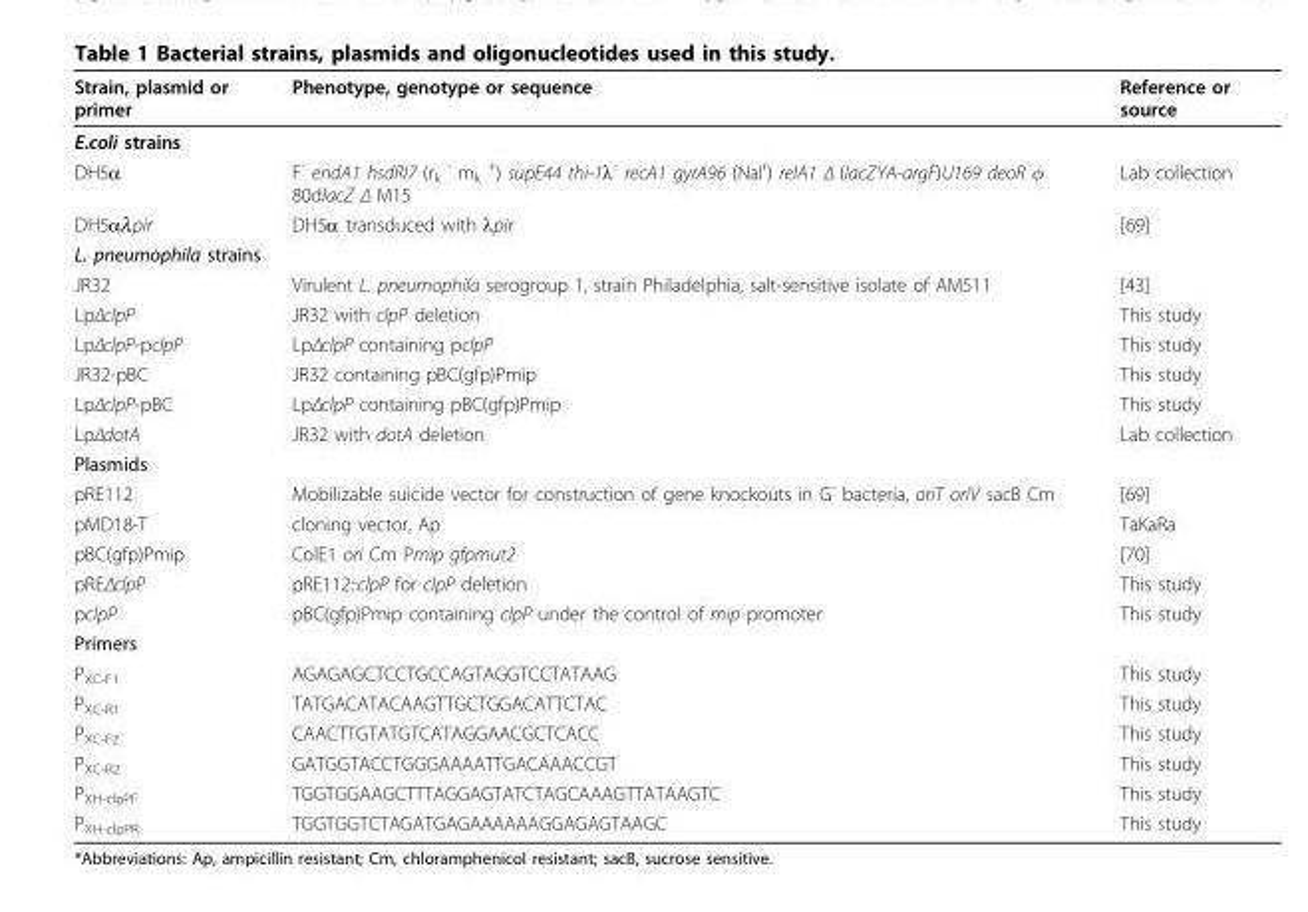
<table><thead><tr><td>Strain, plasmid or primer</td><td>Phenotype, genotype or sequence</td><td>Reference or source</td></tr></thead><tbody><tr><td colspan="3">E.coli strains</td></tr><tr><td>DH5α</td><td>F<sup>-</sup> endA1 hsdRI7 (r<sub>k</sub> <sup>-</sup> m<sub>k</sub> <sup>+</sup>) supE44 thi-1λ<sup>-</sup> recA1 gyrA96 (Nal<sup>r</sup>) relA1 Δ (lacZYA-argF)U169 deoR φ 80dlacZ Δ M15</td><td>Lab collection</td></tr><tr><td>DH5αλpir</td><td>DH5α transduced with λpir</td><td>[69]</td></tr><tr><td colspan="3">L. pneumophila strains</td></tr><tr><td>JR32</td><td>Virulent L. pneumophila serogroup 1, strain Philadelphia, salt-sensitive isolate of AM511</td><td>[43]</td></tr><tr><td>LpΔclpP</td><td>JR32 with clpP deletion</td><td>This study</td></tr><tr><td>LpΔclpP-pclpP</td><td>LpΔclpP containing pclpP</td><td>This study</td></tr><tr><td>JR32-pBC</td><td>JR32 containing pBC(gfp)Pmip</td><td>This study</td></tr><tr><td>LpΔclpP-pBC</td><td>LpΔclpP containing pBC(gfp)Pmip</td><td>This study</td></tr><tr><td>LpΔdotA</td><td>JR32 with dotA deletion</td><td>Lab collection</td></tr><tr><td colspan="3">Plasmids</td></tr><tr><td>pRE112</td><td>Mobilizable suicide vector for construction of gene knockouts in G<sup>-</sup> bacteria, oriT oriV sacB Cm</td><td>[69]</td></tr><tr><td>pMD18-T</td><td>cloning vector, Ap</td><td>TaKaRa</td></tr><tr><td>pBC(gfp)Pmip</td><td>ColE1 ori Cm Pmip gfpmut2</td><td>[70]</td></tr><tr><td>pREΔclpP</td><td>pRE112::clpP for clpP deletion</td><td>This study</td></tr><tr><td>pclpP</td><td>pBC(gfp)Pmip containing clpP under the control of mip promoter</td><td>This study</td></tr><tr><td colspan="3">Primers</td></tr><tr><td>P<sub>XC-F1</sub></td><td>AGAGAGCTCCTGCCAGTAGGTCCTATAAG</td><td>This study</td></tr><tr><td>P<sub>XC-R1</sub></td><td>TATGACATACAAGTTGCTGGACATTCTAC</td><td>This study</td></tr><tr><td>P<sub>XC-F2</sub></td><td>CAACTTGTATGTCATAGGAACGCTCACC</td><td>This study</td></tr><tr><td>P<sub>XC-R2</sub></td><td>GATGGTACCTGGGAAAATTGACAAACCGT</td><td>This study</td></tr><tr><td>P<sub>XH-clpPF</sub></td><td>TGGTGGAAGCTTTAGGAGTATCTAGCAAAGTTATAAGTC</td><td>This study</td></tr><tr><td>P<sub>XH-clpPR</sub></td><td>TGGTGGTCTAGATGAGAAAAAAGGAGAGTAAGC</td><td>This study</td></tr></tbody></table>